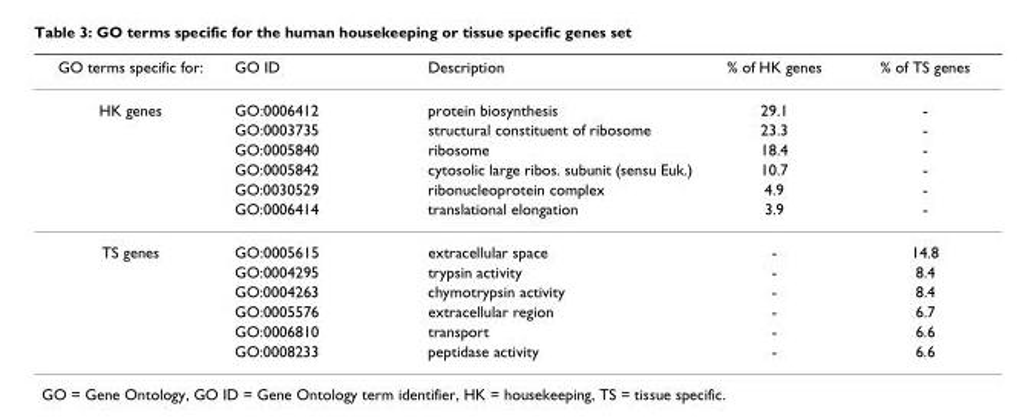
<table><thead><tr><td>GO terms specific for:</td><td>GO ID</td><td>Description</td><td>% of HK genes</td><td>% of TS genes</td></tr></thead><tbody><tr><td rowspan="6">HK genes</td><td>GO:0006412</td><td>protein biosynthesis</td><td>29.1</td><td>-</td></tr><tr><td>GO:0003735</td><td>structural constituent of ribosome</td><td>23.3</td><td>-</td></tr><tr><td>GO:0005840</td><td>ribosome</td><td>18.4</td><td>-</td></tr><tr><td>GO:0005842</td><td>cytosolic large ribos. subunit (sensu Euk.)</td><td>10.7</td><td>-</td></tr><tr><td>GO:0030529</td><td>ribonucleoprotein complex</td><td>4.9</td><td>-</td></tr><tr><td>GO:0006414</td><td>translational elongation</td><td>3.9</td><td>-</td></tr><tr><td rowspan="6">TS genes</td><td>GO:0005615</td><td>extracellular space</td><td>-</td><td>14.8</td></tr><tr><td>GO:0004295</td><td>trypsin activity</td><td>-</td><td>8.4</td></tr><tr><td>GO:0004263</td><td>chymotrypsin activity</td><td>-</td><td>8.4</td></tr><tr><td>GO:0005576</td><td>extracellular region</td><td>-</td><td>6.7</td></tr><tr><td>GO:0006810</td><td>transport</td><td>-</td><td>6.6</td></tr><tr><td>GO:0008233</td><td>peptidase activity</td><td>-</td><td>6.6</td></tr></tbody></table>